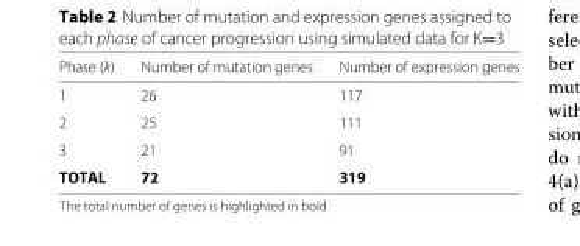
<table><thead><tr><td>Phase (k)</td><td>Number of mutation genes</td><td>Number of expression genes</td></tr></thead><tbody><tr><td>1</td><td>26</td><td>117</td></tr><tr><td>2</td><td>25</td><td>111</td></tr><tr><td>3</td><td>21</td><td>91</td></tr><tr><td>TOTAL</td><td>72</td><td>319</td></tr></tbody></table>